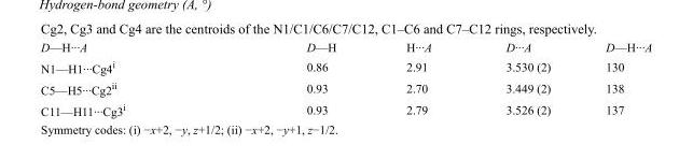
<table><tbody><tr><td>D—H···A</td><td>D—H</td><td>H···A</td><td>D···A</td><td>D—H···A</td></tr><tr><td>N1—H1···Cg4<sup>i</sup></td><td>0.86</td><td>2.91</td><td>3.530 (2)</td><td>130</td></tr><tr><td>C5—H5···Cg2<sup>ii</sup></td><td>0.93</td><td>2.70</td><td>3.449 (2)</td><td>138</td></tr><tr><td>C11—H11···Cg3<sup>i</sup></td><td>0.93</td><td>2.79</td><td>3.526 (2)</td><td>137</td></tr></tbody></table>